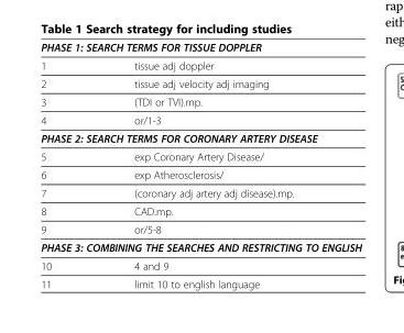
<table><tbody><tr><td colspan="2">PHASE 1: SEARCH TERMS FOR TISSUE DOPPLER</td></tr><tr><td>1</td><td>tissue adj doppler</td></tr><tr><td>2</td><td>tissue adj velocity adj imaging</td></tr><tr><td>3</td><td>(TDI or TVI).mp.</td></tr><tr><td>4</td><td>or/1-3</td></tr><tr><td colspan="2">PHASE 2: SEARCH TERMS FOR CORONARY ARTERY DISEASE</td></tr><tr><td>5</td><td>exp Coronary Artery Disease/</td></tr><tr><td>6</td><td>exp Atherosclerosis/</td></tr><tr><td>7</td><td>(coronary adj artery adj disease).mp.</td></tr><tr><td>8</td><td>CAD.mp.</td></tr><tr><td>9</td><td>or/5-8</td></tr><tr><td colspan="2">PHASE 3: COMBINING THE SEARCHES AND RESTRICTING TO ENGLISH</td></tr><tr><td>10</td><td>4 and 9</td></tr><tr><td>11</td><td>limit 10 to english language</td></tr></tbody></table>